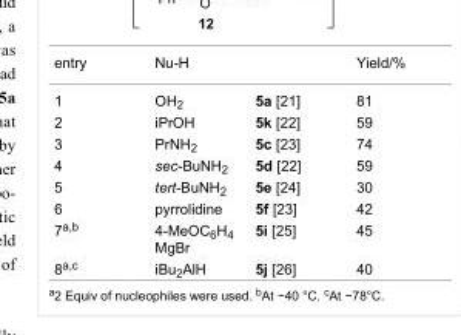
<table><tbody><tr><td>entry</td><td>Nu-H</td><td></td><td>Yield/%</td></tr><tr><td>1</td><td>OH<sub>2</sub></td><td>5a [21]</td><td>81</td></tr><tr><td>2</td><td>iPrOH</td><td>5k [22]</td><td>59</td></tr><tr><td>3</td><td>PrNH<sub>2</sub></td><td>5c [23]</td><td>74</td></tr><tr><td>4</td><td>sec-BuNH<sub>2</sub></td><td>5d [22]</td><td>59</td></tr><tr><td>5</td><td>tert-BuNH<sub>2</sub></td><td>5e [24]</td><td>30</td></tr><tr><td>6</td><td>pyrrolidine</td><td>5f [23]</td><td>42</td></tr><tr><td>7<sup>a,b</sup></td><td>4-MeOC<sub>6</sub>H<sub>4</sub> MgBr</td><td>5i [25]</td><td>45</td></tr><tr><td>8<sup>a,c</sup></td><td>iBu<sub>2</sub>AlH</td><td>5j [26]</td><td>40</td></tr></tbody></table>